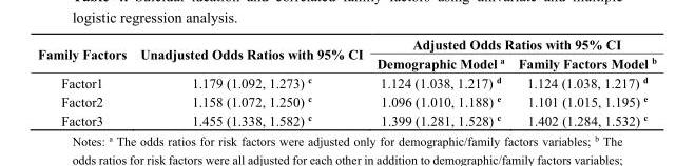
<table><thead><tr><td rowspan="2">Family Factors</td><td rowspan="2">Unadjusted Odds Ratios with 95% CI</td><td colspan="2">Adjusted Odds Ratios with 95% CI</td></tr><tr><td>Demographic Model <sup>a</sup></td><td>Family Factors Model <sup>b</sup></td></tr></thead><tbody><tr><td>Factor1</td><td>1.179 (1.092, 1.273) <sup>c</sup></td><td>1.124 (1.038, 1.217) <sup>d</sup></td><td>1.124 (1.038, 1.217) <sup>d</sup></td></tr><tr><td>Factor2</td><td>1.158 (1.072, 1.250) <sup>c</sup></td><td>1.096 (1.010, 1.188) <sup>e</sup></td><td>1.101 (1.015, 1.195) <sup>e</sup></td></tr><tr><td>Factor3</td><td>1.455 (1.338, 1.582) <sup>c</sup></td><td>1.399 (1.281, 1.528) <sup>c</sup></td><td>1.402 (1.284, 1.532) <sup>c</sup></td></tr></tbody></table>